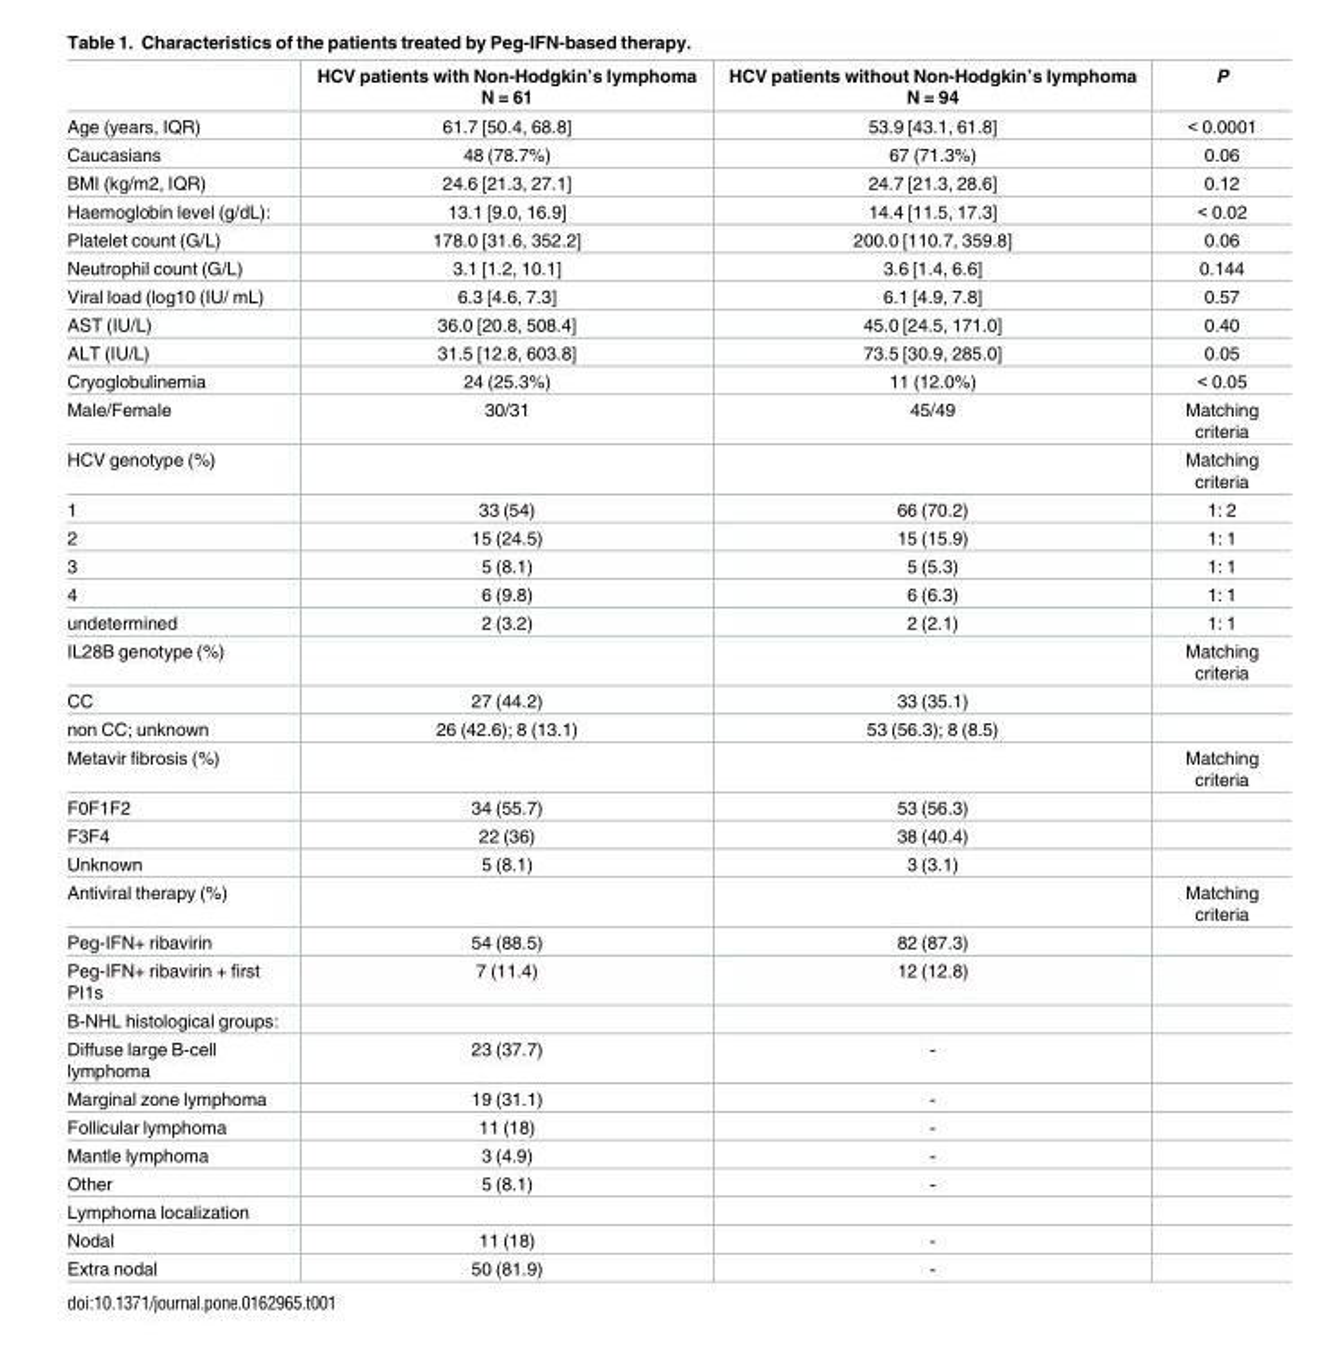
<table><thead><tr><td></td><td>HCV patients with Non-Hodgkin’s lymphoma N = 61</td><td>HCV patients without Non-Hodgkin’s lymphoma N = 94</td><td>P</td></tr></thead><tbody><tr><td>Age (years, IQR)</td><td>61.7 [50.4, 68.8]</td><td>53.9 [43.1, 61.8]</td><td>&lt; 0.0001</td></tr><tr><td>Caucasians</td><td>48 (78.7%)</td><td>67 (71.3%)</td><td>0.06</td></tr><tr><td>BMI (kg/m2, IQR)</td><td>24.6 [21.3, 27.1]</td><td>24.7 [21.3, 28.6]</td><td>0.12</td></tr><tr><td>Haemoglobin level (g/dL):</td><td>13.1 [9.0, 16.9]</td><td>14.4 [11.5, 17.3]</td><td>&lt; 0.02</td></tr><tr><td>Platelet count (G/L)</td><td>178.0 [31.6, 352.2]</td><td>200.0 [110.7, 359.8]</td><td>0.06</td></tr><tr><td>Neutrophil count (G/L)</td><td>3.1 [1.2, 10.1]</td><td>3.6 [1.4, 6.6]</td><td>0.144</td></tr><tr><td>Viral load (log10 (IU/ mL)</td><td>6.3 [4.6, 7.3]</td><td>6.1 [4.9, 7.8]</td><td>0.57</td></tr><tr><td>AST (IU/L)</td><td>36.0 [20.8, 508.4]</td><td>45.0 [24.5, 171.0]</td><td>0.40</td></tr><tr><td>ALT (IU/L)</td><td>31.5 [12.8, 603.8]</td><td>73.5 [30.9, 285.0]</td><td>0.05</td></tr><tr><td>Cryoglobulinemia</td><td>24 (25.3%)</td><td>11 (12.0%)</td><td>&lt; 0.05</td></tr><tr><td>Male/Female</td><td>30/31</td><td>45/49</td><td>Matching criteria</td></tr><tr><td>HCV genotype (%)</td><td></td><td></td><td>Matching criteria</td></tr><tr><td>1</td><td>33 (54)</td><td>66 (70.2)</td><td>1: 2</td></tr><tr><td>2</td><td>15 (24.5)</td><td>15 (15.9)</td><td>1: 1</td></tr><tr><td>3</td><td>5 (8.1)</td><td>5 (5.3)</td><td>1: 1</td></tr><tr><td>4</td><td>6 (9.8)</td><td>6 (6.3)</td><td>1: 1</td></tr><tr><td>undetermined</td><td>2 (3.2)</td><td>2 (2.1)</td><td>1: 1</td></tr><tr><td>IL28B genotype (%)</td><td></td><td></td><td>Matching criteria</td></tr><tr><td>CC</td><td>27 (44.2)</td><td>33 (35.1)</td><td></td></tr><tr><td>non CC; unknown</td><td>26 (42.6); 8 (13.1)</td><td>53 (56.3); 8 (8.5)</td><td></td></tr><tr><td>Metavir fibrosis (%)</td><td></td><td></td><td>Matching criteria</td></tr><tr><td>F0F1F2</td><td>34 (55.7)</td><td>53 (56.3)</td><td></td></tr><tr><td>F3F4</td><td>22 (36)</td><td>38 (40.4)</td><td></td></tr><tr><td>Unknown</td><td>5 (8.1)</td><td>3 (3.1)</td><td></td></tr><tr><td>Antiviral therapy (%)</td><td></td><td></td><td>Matching criteria</td></tr><tr><td>Peg-IFN+ ribavirin</td><td>54 (88.5)</td><td>82 (87.3)</td><td></td></tr><tr><td>Peg-IFN+ ribavirin + first PI1s</td><td>7 (11.4)</td><td>12 (12.8)</td><td></td></tr><tr><td colspan="4">B-NHL histological groups:</td></tr><tr><td>Diffuse large B-cell lymphoma</td><td>23 (37.7)</td><td>-</td><td></td></tr><tr><td>Marginal zone lymphoma</td><td>19 (31.1)</td><td>-</td><td></td></tr><tr><td>Follicular lymphoma</td><td>11 (18)</td><td>-</td><td></td></tr><tr><td>Mantle lymphoma</td><td>3 (4.9)</td><td>-</td><td></td></tr><tr><td>Other</td><td>5 (8.1)</td><td>-</td><td></td></tr><tr><td colspan="4">Lymphoma localization</td></tr><tr><td>Nodal</td><td>11 (18)</td><td>-</td><td></td></tr><tr><td>Extra nodal</td><td>50 (81.9)</td><td>-</td><td></td></tr></tbody></table>